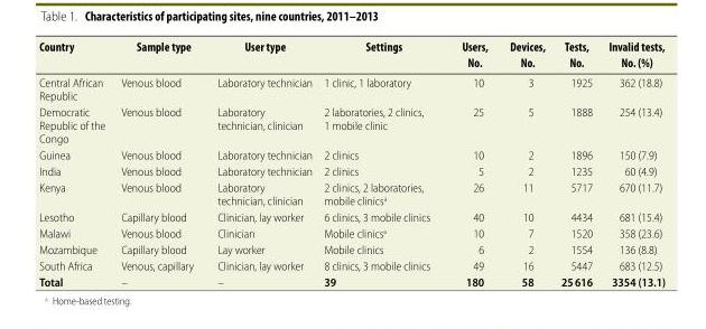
<table><thead><tr><td>Country</td><td>Sample type</td><td>User type</td><td>Settings</td><td>Users, No.</td><td>Devices, No.</td><td>Tests, No.</td><td>Invalid tests, No. (%)</td></tr></thead><tbody><tr><td>Central African Republic</td><td>Venous blood</td><td>Laboratory technician</td><td>1 clinic, 1 laboratory</td><td>10</td><td>3</td><td>1925</td><td>362 (18.8)</td></tr><tr><td>Democratic Republic of the Congo</td><td>Venous blood</td><td>Laboratory technician, clinician</td><td>2 laboratories, 2 clinics, 1 mobile clinic</td><td>25</td><td>5</td><td>1888</td><td>254 (13.4)</td></tr><tr><td>Guinea</td><td>Venous blood</td><td>Laboratory technician</td><td>2 clinics</td><td>10</td><td>2</td><td>1896</td><td>150 (7.9)</td></tr><tr><td>India</td><td>Venous blood</td><td>Laboratory technician</td><td>2 clinics</td><td>5</td><td>2</td><td>1235</td><td>60 (4.9)</td></tr><tr><td>Kenya</td><td>Venous blood</td><td>Laboratory technician, clinician</td><td>2 clinics, 2 laboratories, mobile clinics<sup>a</sup></td><td>26</td><td>11</td><td>5717</td><td>670 (11.7)</td></tr><tr><td>Lesotho</td><td>Capillary blood</td><td>Clinician, lay worker</td><td>6 clinics, 3 mobile clinics</td><td>40</td><td>10</td><td>4434</td><td>681 (15.4)</td></tr><tr><td>Malawi</td><td>Venous blood</td><td>Clinician</td><td>Mobile clinics<sup>a</sup></td><td>10</td><td>7</td><td>1520</td><td>358 (23.6)</td></tr><tr><td>Mozambique</td><td>Capillary blood</td><td>Lay worker</td><td>Mobile clinics</td><td>6</td><td>2</td><td>1554</td><td>136 (8.8)</td></tr><tr><td>South Africa</td><td>Venous, capillary</td><td>Clinician, lay worker</td><td>8 clinics, 3 mobile clinics</td><td>49</td><td>16</td><td>5447</td><td>683 (12.5)</td></tr><tr><td>Total</td><td>–</td><td>–</td><td>39</td><td>180</td><td>58</td><td>25 616</td><td>3354 (13.1)</td></tr></tbody></table>